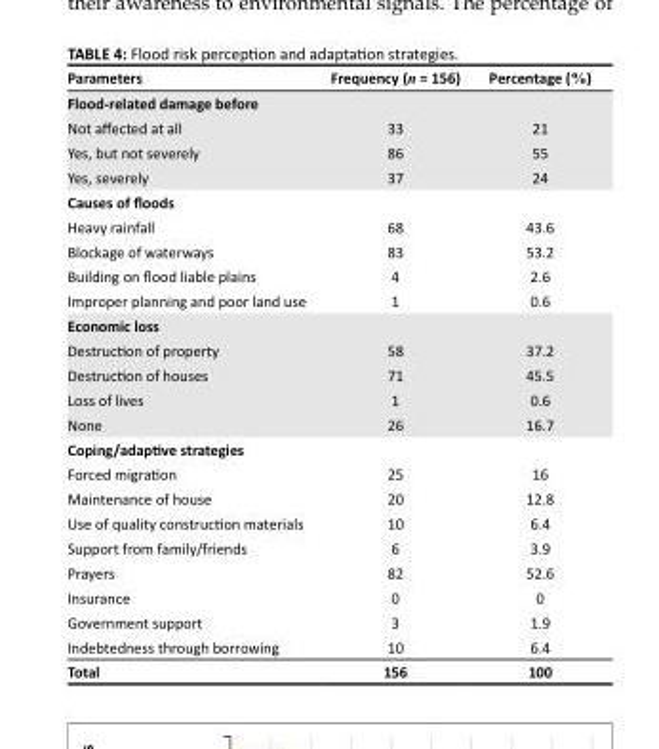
<table><thead><tr><td>Parameters</td><td>Frequency (n = 156)</td><td>Percentage (%)</td></tr></thead><tbody><tr><td colspan="3">Flood-related damage before</td></tr><tr><td>Not affected at all</td><td>33</td><td>21</td></tr><tr><td>Yes, but not severely</td><td>86</td><td>55</td></tr><tr><td>Yes, severely</td><td>37</td><td>24</td></tr><tr><td colspan="3">Causes of floods</td></tr><tr><td>Heavy rainfall</td><td>68</td><td>43.6</td></tr><tr><td>Blockage of waterways</td><td>83</td><td>53.2</td></tr><tr><td>Building on flood liable plains</td><td>4</td><td>2.6</td></tr><tr><td>Improper planning and poor land use</td><td>1</td><td>0.6</td></tr><tr><td colspan="3">Economic loss</td></tr><tr><td>Destruction of property</td><td>58</td><td>37.2</td></tr><tr><td>Destruction of houses</td><td>71</td><td>45.5</td></tr><tr><td>Loss of lives</td><td>1</td><td>0.6</td></tr><tr><td>None</td><td>26</td><td>16.7</td></tr><tr><td colspan="3">Coping/adaptive strategies</td></tr><tr><td>Forced migration</td><td>25</td><td>16</td></tr><tr><td>Maintenance of house</td><td>20</td><td>12.8</td></tr><tr><td>Use of quality construction materials</td><td>10</td><td>6.4</td></tr><tr><td>Support from family/friends</td><td>6</td><td>3.9</td></tr><tr><td>Prayers</td><td>82</td><td>52.6</td></tr><tr><td>Insurance</td><td>0</td><td>0</td></tr><tr><td>Government support</td><td>3</td><td>1.9</td></tr><tr><td>Indebtedness through borrowing</td><td>10</td><td>6.4</td></tr><tr><td>Total</td><td>156</td><td>100</td></tr></tbody></table>